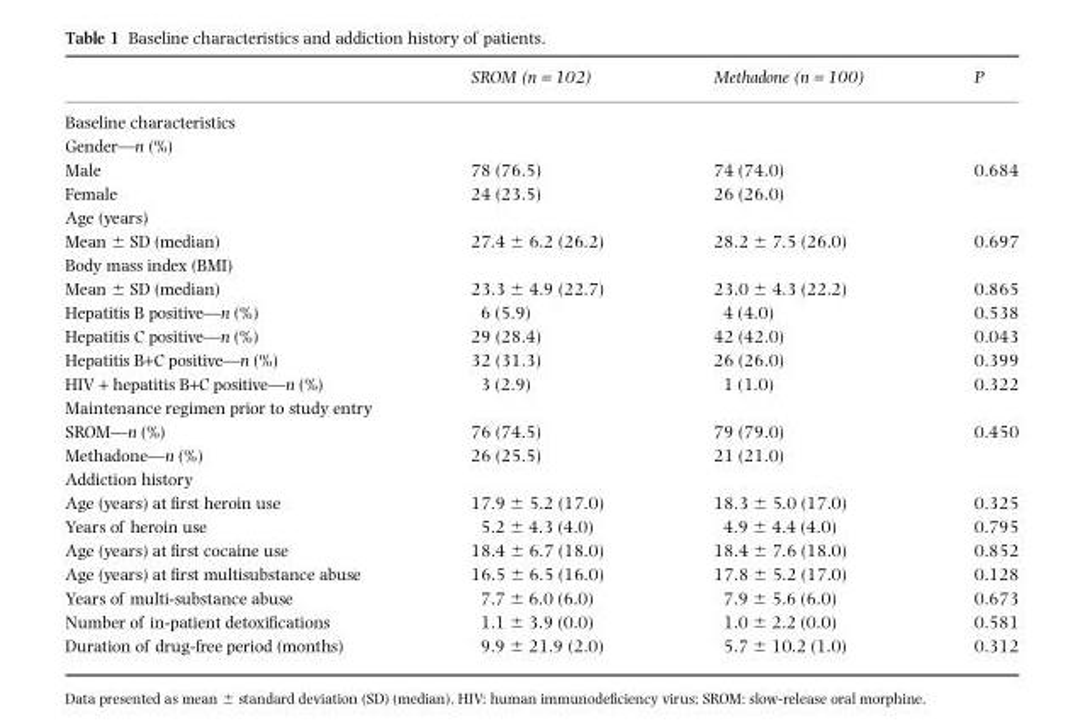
<table><thead><tr><td></td><td>SROM (n = 102)</td><td>Methadone (n = 100)</td><td>P</td></tr></thead><tbody><tr><td colspan="4">Baseline characteristics</td></tr><tr><td colspan="4">Gender—n (%)</td></tr><tr><td>Male</td><td>78 (76.5)</td><td>74 (74.0)</td><td>0.684</td></tr><tr><td>Female</td><td>24 (23.5)</td><td>26 (26.0)</td><td></td></tr><tr><td colspan="4">Age (years)</td></tr><tr><td>Mean ± SD (median)</td><td>27.4 ± 6.2 (26.2)</td><td>28.2 ± 7.5 (26.0)</td><td>0.697</td></tr><tr><td colspan="4">Body mass index (BMI)</td></tr><tr><td>Mean ± SD (median)</td><td>23.3 ± 4.9 (22.7)</td><td>23.0 ± 4.3 (22.2)</td><td>0.865</td></tr><tr><td>Hepatitis B positive—n (%)</td><td>6 (5.9)</td><td>4 (4.0)</td><td>0.538</td></tr><tr><td>Hepatitis C positive—n (%)</td><td>29 (28.4)</td><td>42 (42.0)</td><td>0.043</td></tr><tr><td>Hepatitis B+C positive—n (%)</td><td>32 (31.3)</td><td>26 (26.0)</td><td>0.399</td></tr><tr><td>HIV + hepatitis B+C positive—n (%)</td><td>3 (2.9)</td><td>1 (1.0)</td><td>0.322</td></tr><tr><td colspan="4">Maintenance regimen prior to study entry</td></tr><tr><td>SROM—n (%)</td><td>76 (74.5)</td><td>79 (79.0)</td><td>0.450</td></tr><tr><td>Methadone—n (%)</td><td>26 (25.5)</td><td>21 (21.0)</td><td></td></tr><tr><td colspan="4">Addiction history</td></tr><tr><td>Age (years) at first heroin use</td><td>17.9 ± 5.2 (17.0)</td><td>18.3 ± 5.0 (17.0)</td><td>0.325</td></tr><tr><td>Years of heroin use</td><td>5.2 ± 4.3 (4.0)</td><td>4.9 ± 4.4 (4.0)</td><td>0.795</td></tr><tr><td>Age (years) at first cocaine use</td><td>18.4 ± 6.7 (18.0)</td><td>18.4 ± 7.6 (18.0)</td><td>0.852</td></tr><tr><td>Age (years) at first multisubstance abuse</td><td>16.5 ± 6.5 (16.0)</td><td>17.8 ± 5.2 (17.0)</td><td>0.128</td></tr><tr><td>Years of multi-substance abuse</td><td>7.7 ± 6.0 (6.0)</td><td>7.9 ± 5.6 (6.0)</td><td>0.673</td></tr><tr><td>Number of in-patient detoxifications</td><td>1.1 ± 3.9 (0.0)</td><td>1.0 ± 2.2 (0.0)</td><td>0.581</td></tr><tr><td>Duration of drug-free period (months)</td><td>9.9 ± 21.9 (2.0)</td><td>5.7 ± 10.2 (1.0)</td><td>0.312</td></tr></tbody></table>